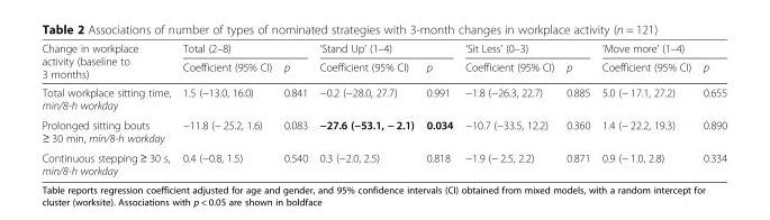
<table><thead><tr><td rowspan="2">Change in workplace activity (baseline to 3 months)</td><td colspan="2">Total (2–8)</td><td colspan="2">‘Stand Up’ (1–4)</td><td colspan="2">‘Sit Less’ (0–3)</td><td colspan="2">‘Move more’ (1–4)</td></tr><tr><td>Coefficient (95% CI)</td><td>p</td><td>Coefficient (95% CI)</td><td>p</td><td>Coefficient (95% CI)</td><td>p</td><td>Coefficient (95% CI)</td><td>p</td></tr></thead><tbody><tr><td>Total workplace sitting time, min/8-h workday</td><td>1.5 (−13.0, 16.0)</td><td>0.841</td><td>−0.2 (−28.0, 27.7)</td><td>0.991</td><td>−1.8 (−26.3, 22.7)</td><td>0.885</td><td>5.0 (− 17.1, 27.2)</td><td>0.655</td></tr><tr><td>Prolonged sitting bouts ≥ 30 min, min/8-h workday</td><td>−11.8 (− 25.2, 1.6)</td><td>0.083</td><td>−27.6 (−53.1, − 2.1)</td><td>0.034</td><td>−10.7 (−33.5, 12.2)</td><td>0.360</td><td>1.4 (− 22.2, 19.3)</td><td>0.890</td></tr><tr><td>Continuous stepping ≥ 30 s, min/8-h workday</td><td>0.4 (−0.8, 1.5)</td><td>0.540</td><td>0.3 (−2.0, 2.5)</td><td>0.818</td><td>−1.9 (− 2.5, 2.2)</td><td>0.871</td><td>0.9 (− 1.0, 2.8)</td><td>0.334</td></tr></tbody></table>